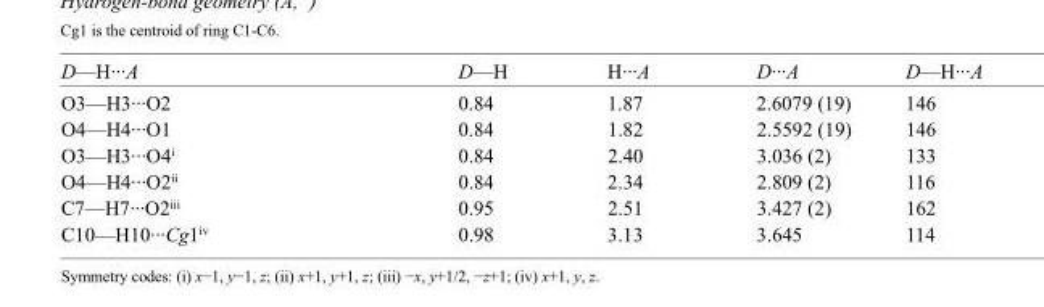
<table><tbody><tr><td>D—H···A</td><td>D—H</td><td>H···A</td><td>D···A</td><td>D—H···A</td></tr><tr><td>O3—H3···O2</td><td>0.84</td><td>1.87</td><td>2.6079 (19)</td><td>146</td></tr><tr><td>O4—H4···O1</td><td>0.84</td><td>1.82</td><td>2.5592 (19)</td><td>146</td></tr><tr><td>O3—H3···O4<sup>i</sup></td><td>0.84</td><td>2.40</td><td>3.036 (2)</td><td>133</td></tr><tr><td>O4—H4···O2<sup>ii</sup></td><td>0.84</td><td>2.34</td><td>2.809 (2)</td><td>116</td></tr><tr><td>C7—H7···O2<sup>iii</sup></td><td>0.95</td><td>2.51</td><td>3.427 (2)</td><td>162</td></tr><tr><td>C10—H10···Cg1<sup>iv</sup></td><td>0.98</td><td>3.13</td><td>3.645</td><td>114</td></tr></tbody></table>